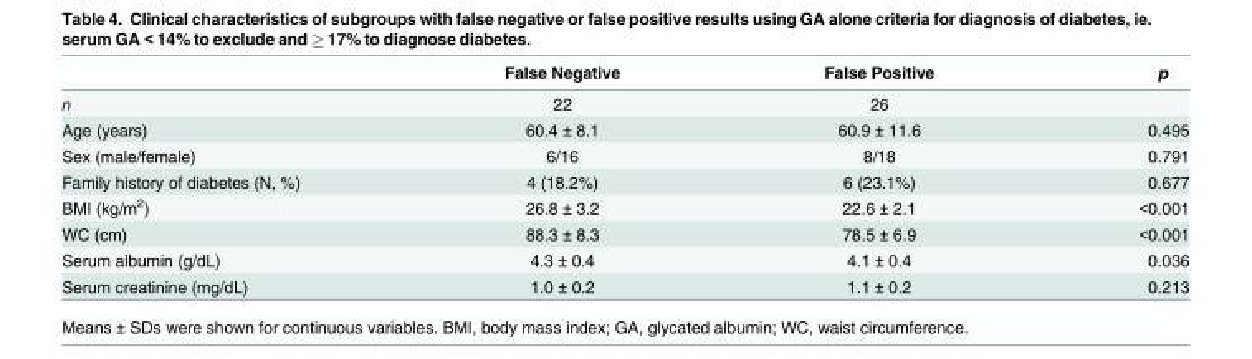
<table><thead><tr><td></td><td>False Negative</td><td>False Positive</td><td>p</td></tr></thead><tbody><tr><td>n</td><td>22</td><td>26</td><td></td></tr><tr><td>Age (years)</td><td>60.4 ± 8.1</td><td>60.9 ± 11.6</td><td>0.495</td></tr><tr><td>Sex (male/female)</td><td>6/16</td><td>8/18</td><td>0.791</td></tr><tr><td>Family history of diabetes (N, %)</td><td>4 (18.2%)</td><td>6 (23.1%)</td><td>0.677</td></tr><tr><td>BMI (kg/m<sup>2</sup>)</td><td>26.8 ± 3.2</td><td>22.6 ± 2.1</td><td>&lt;0.001</td></tr><tr><td>WC (cm)</td><td>88.3 ± 8.3</td><td>78.5 ± 6.9</td><td>&lt;0.001</td></tr><tr><td>Serum albumin (g/dL)</td><td>4.3 ± 0.4</td><td>4.1 ± 0.4</td><td>0.036</td></tr><tr><td>Serum creatinine (mg/dL)</td><td>1.0 ± 0.2</td><td>1.1 ± 0.2</td><td>0.213</td></tr></tbody></table>